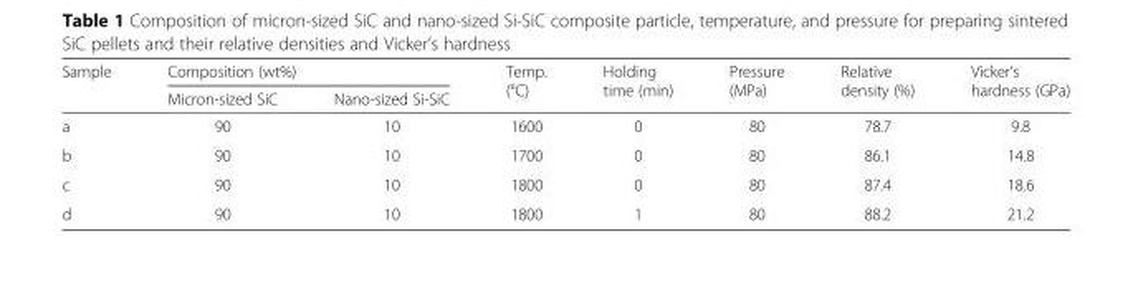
<table><thead><tr><td rowspan="2">Sample</td><td colspan="2">Composition (wt%)</td><td rowspan="2">Temp. (°C)</td><td rowspan="2">Holding time (min)</td><td rowspan="2">Pressure (MPa)</td><td rowspan="2">Relative density (%)</td><td rowspan="2">Vicker’s hardness (GPa)</td></tr><tr><td>Micron-sized SiC</td><td>Nano-sized Si-SiC</td></tr></thead><tbody><tr><td>a</td><td>90</td><td>10</td><td>1600</td><td>0</td><td>80</td><td>78.7</td><td>9.8</td></tr><tr><td>b</td><td>90</td><td>10</td><td>1700</td><td>0</td><td>80</td><td>86.1</td><td>14.8</td></tr><tr><td>c</td><td>90</td><td>10</td><td>1800</td><td>0</td><td>80</td><td>87.4</td><td>18.6</td></tr><tr><td>d</td><td>90</td><td>10</td><td>1800</td><td>1</td><td>80</td><td>88.2</td><td>21.2</td></tr></tbody></table>